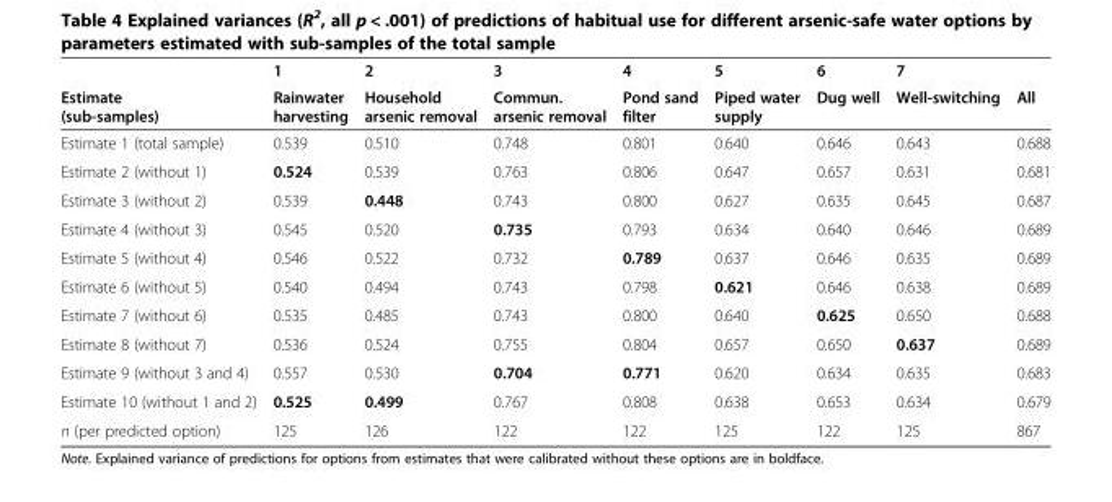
<table><thead><tr><td rowspan="2">Estimate (sub-samples)</td><td rowspan="2">1 Rainwater harvesting</td><td rowspan="2">2 Household arsenic removal</td><td rowspan="2">3 Commun. arsenic removal</td><td rowspan="2">4 Pond sand filter</td><td rowspan="2">5 Piped water supply</td><td rowspan="2">6 Dug well</td><td rowspan="2">7 Well-switching</td><td rowspan="2">All</td></tr><tr></tr></thead><tbody><tr><td>Estimate 1 (total sample)</td><td>0.539</td><td>0.510</td><td>0.748</td><td>0.801</td><td>0.640</td><td>0.646</td><td>0.643</td><td>0.688</td></tr><tr><td>Estimate 2 (without 1)</td><td>0.524</td><td>0.539</td><td>0.763</td><td>0.806</td><td>0.647</td><td>0.657</td><td>0.631</td><td>0.681</td></tr><tr><td>Estimate 3 (without 2)</td><td>0.539</td><td>0.448</td><td>0.743</td><td>0.800</td><td>0.627</td><td>0.635</td><td>0.645</td><td>0.687</td></tr><tr><td>Estimate 4 (without 3)</td><td>0.545</td><td>0.520</td><td>0.735</td><td>0.793</td><td>0.634</td><td>0.640</td><td>0.646</td><td>0.689</td></tr><tr><td>Estimate 5 (without 4)</td><td>0.546</td><td>0.522</td><td>0.732</td><td>0.789</td><td>0.637</td><td>0.646</td><td>0.635</td><td>0.689</td></tr><tr><td>Estimate 6 (without 5)</td><td>0.540</td><td>0.494</td><td>0.743</td><td>0.798</td><td>0.621</td><td>0.646</td><td>0.638</td><td>0.689</td></tr><tr><td>Estimate 7 (without 6)</td><td>0.535</td><td>0.485</td><td>0.743</td><td>0.800</td><td>0.640</td><td>0.625</td><td>0.650</td><td>0.688</td></tr><tr><td>Estimate 8 (without 7)</td><td>0.536</td><td>0.524</td><td>0.755</td><td>0.804</td><td>0.657</td><td>0.650</td><td>0.637</td><td>0.689</td></tr><tr><td>Estimate 9 (without 3 and 4)</td><td>0.557</td><td>0.530</td><td>0.704</td><td>0.771</td><td>0.620</td><td>0.634</td><td>0.635</td><td>0.683</td></tr><tr><td>Estimate 10 (without 1 and 2)</td><td>0.525</td><td>0.499</td><td>0.767</td><td>0.808</td><td>0.638</td><td>0.653</td><td>0.634</td><td>0.679</td></tr><tr><td>n (per predicted option)</td><td>125</td><td>126</td><td>122</td><td>122</td><td>125</td><td>122</td><td>125</td><td>867</td></tr></tbody></table>